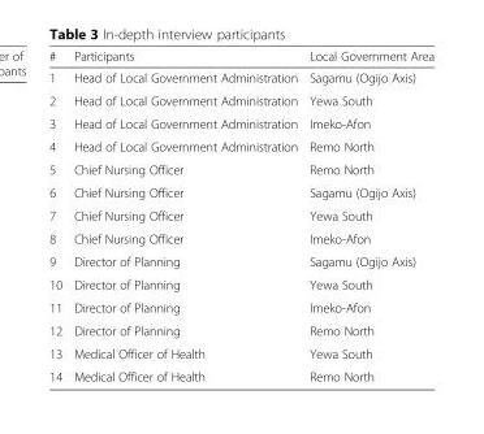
<table><thead><tr><td>#</td><td>Participants</td><td>Local Government Area</td></tr></thead><tbody><tr><td>1</td><td>Head of Local Government Administration</td><td>Sagamu (Ogijo Axis)</td></tr><tr><td>2</td><td>Head of Local Government Administration</td><td>Yewa South</td></tr><tr><td>3</td><td>Head of Local Government Administration</td><td>Imeko-Afon</td></tr><tr><td>4</td><td>Head of Local Government Administration</td><td>Remo North</td></tr><tr><td>5</td><td>Chief Nursing Officer</td><td>Remo North</td></tr><tr><td>6</td><td>Chief Nursing Officer</td><td>Sagamu (Ogijo Axis)</td></tr><tr><td>7</td><td>Chief Nursing Officer</td><td>Yewa South</td></tr><tr><td>8</td><td>Chief Nursing Officer</td><td>Imeko-Afon</td></tr><tr><td>9</td><td>Director of Planning</td><td>Sagamu (Ogijo Axis)</td></tr><tr><td>10</td><td>Director of Planning</td><td>Yewa South</td></tr><tr><td>11</td><td>Director of Planning</td><td>Imeko-Afon</td></tr><tr><td>12</td><td>Director of Planning</td><td>Remo North</td></tr><tr><td>13</td><td>Medical Officer of Health</td><td>Yewa South</td></tr><tr><td>14</td><td>Medical Officer of Health</td><td>Remo North</td></tr></tbody></table>